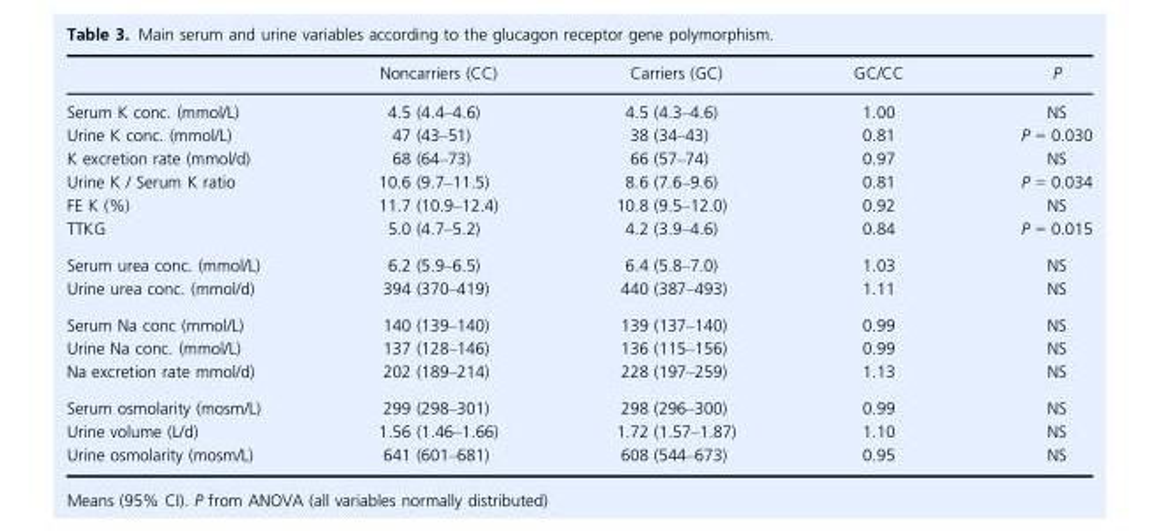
<table><thead><tr><td></td><td>Noncarriers (CC)</td><td>Carriers (GC)</td><td>GC/CC</td><td>P</td></tr></thead><tbody><tr><td>Serum K conc. (mmol/L)</td><td>4.5 (4.4–4.6)</td><td>4.5 (4.3–4.6)</td><td>1.00</td><td>NS</td></tr><tr><td>Urine K conc. (mmol/L)</td><td>47 (43–51)</td><td>38 (34–43)</td><td>0.81</td><td>P = 0.030</td></tr><tr><td>K excretion rate (mmol/d)</td><td>68 (64–73)</td><td>66 (57–74)</td><td>0.97</td><td>NS</td></tr><tr><td>Urine K / Serum K ratio</td><td>10.6 (9.7–11.5)</td><td>8.6 (7.6–9.6)</td><td>0.81</td><td>P = 0.034</td></tr><tr><td>FE K (%)</td><td>11.7 (10.9–12.4)</td><td>10.8 (9.5–12.0)</td><td>0.92</td><td>NS</td></tr><tr><td>TTKG</td><td>5.0 (4.7–5.2)</td><td>4.2 (3.9–4.6)</td><td>0.84</td><td>P = 0.015</td></tr><tr><td>Serum urea conc. (mmol/L)</td><td>6.2 (5.9–6.5)</td><td>6.4 (5.8–7.0)</td><td>1.03</td><td>NS</td></tr><tr><td>Urine urea conc. (mmol/d)</td><td>394 (370–419)</td><td>440 (387–493)</td><td>1.11</td><td>NS</td></tr><tr><td>Serum Na conc (mmol/L)</td><td>140 (139–140)</td><td>139 (137–140)</td><td>0.99</td><td>NS</td></tr><tr><td>Urine Na conc. (mmol/L)</td><td>137 (128–146)</td><td>136 (115–156)</td><td>0.99</td><td>NS</td></tr><tr><td>Na excretion rate mmol/d)</td><td>202 (189–214)</td><td>228 (197–259)</td><td>1.13</td><td>NS</td></tr><tr><td>Serum osmolarity (mosm/L)</td><td>299 (298–301)</td><td>298 (296–300)</td><td>0.99</td><td>NS</td></tr><tr><td>Urine volume (L/d)</td><td>1.56 (1.46–1.66)</td><td>1.72 (1.57–1.87)</td><td>1.10</td><td>NS</td></tr><tr><td>Urine osmolarity (mosm/L)</td><td>641 (601–681)</td><td>608 (544–673)</td><td>0.95</td><td>NS</td></tr></tbody></table>